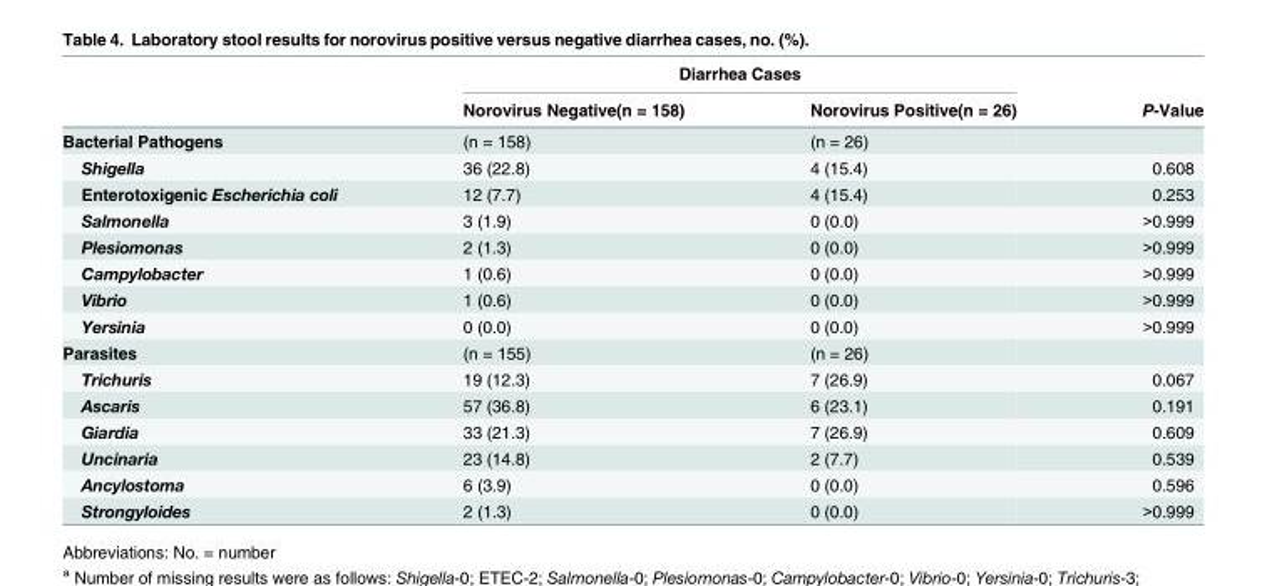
<table><thead><tr><td rowspan="2"></td><td colspan="2">Diarrhea Cases</td><td rowspan="2">P-Value</td></tr><tr><td>Norovirus Negative(n = 158)</td><td>Norovirus Positive(n = 26)</td></tr></thead><tbody><tr><td>Bacterial Pathogens</td><td>(n = 158)</td><td>(n = 26)</td><td></td></tr><tr><td>Shigella</td><td>36 (22.8)</td><td>4 (15.4)</td><td>0.608</td></tr><tr><td>Enterotoxigenic Escherichia coli</td><td>12 (7.7)</td><td>4 (15.4)</td><td>0.253</td></tr><tr><td>Salmonella</td><td>3 (1.9)</td><td>0 (0.0)</td><td>&gt;0.999</td></tr><tr><td>Plesiomonas</td><td>2 (1.3)</td><td>0 (0.0)</td><td>&gt;0.999</td></tr><tr><td>Campylobacter</td><td>1 (0.6)</td><td>0 (0.0)</td><td>&gt;0.999</td></tr><tr><td>Vibrio</td><td>1 (0.6)</td><td>0 (0.0)</td><td>&gt;0.999</td></tr><tr><td>Yersinia</td><td>0 (0.0)</td><td>0 (0.0)</td><td>&gt;0.999</td></tr><tr><td>Parasites</td><td>(n = 155)</td><td>(n = 26)</td><td></td></tr><tr><td>Trichuris</td><td>19 (12.3)</td><td>7 (26.9)</td><td>0.067</td></tr><tr><td>Ascaris</td><td>57 (36.8)</td><td>6 (23.1)</td><td>0.191</td></tr><tr><td>Giardia</td><td>33 (21.3)</td><td>7 (26.9)</td><td>0.609</td></tr><tr><td>Uncinaria</td><td>23 (14.8)</td><td>2 (7.7)</td><td>0.539</td></tr><tr><td>Ancylostoma</td><td>6 (3.9)</td><td>0 (0.0)</td><td>0.596</td></tr><tr><td>Strongyloides</td><td>2 (1.3)</td><td>0 (0.0)</td><td>&gt;0.999</td></tr></tbody></table>